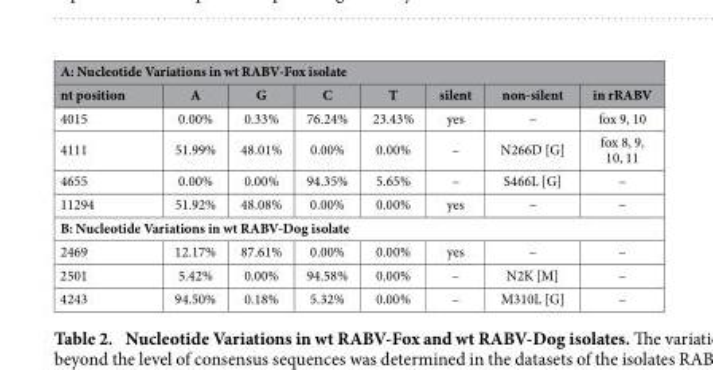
<table><thead><tr><td colspan="8">A: Nucleotide Variations in wt RABV-Fox isolate</td></tr><tr><td>nt position</td><td>A</td><td>G</td><td>C</td><td>T</td><td>silent</td><td>non-silent</td><td>in rRABV</td></tr></thead><tbody><tr><td>4015</td><td>0.00%</td><td>0.33%</td><td>76.24%</td><td>23.43%</td><td>yes</td><td>–</td><td>fox 9, 10</td></tr><tr><td>4111</td><td>51.99%</td><td>48.01%</td><td>0.00%</td><td>0.00%</td><td>–</td><td>N266D [G]</td><td>fox 8, 9, 10, 11</td></tr><tr><td>4655</td><td>0.00%</td><td>0.00%</td><td>94.35%</td><td>5.65%</td><td>–</td><td>S466L [G]</td><td>–</td></tr><tr><td>11294</td><td>51.92%</td><td>48.08%</td><td>0.00%</td><td>0.00%</td><td>yes</td><td>–</td><td>–</td></tr><tr><td colspan="8">B: Nucleotide Variations in wt RABV-Dog isolate</td></tr><tr><td>2469</td><td>12.17%</td><td>87.61%</td><td>0.00%</td><td>0.00%</td><td>yes</td><td>–</td><td>–</td></tr><tr><td>2501</td><td>5.42%</td><td>0.00%</td><td>94.58%</td><td>0.00%</td><td>–</td><td>N2K [M]</td><td>–</td></tr><tr><td>4243</td><td>94.50%</td><td>0.18%</td><td>5.32%</td><td>0.00%</td><td>–</td><td>M310L [G]</td><td>–</td></tr></tbody></table>